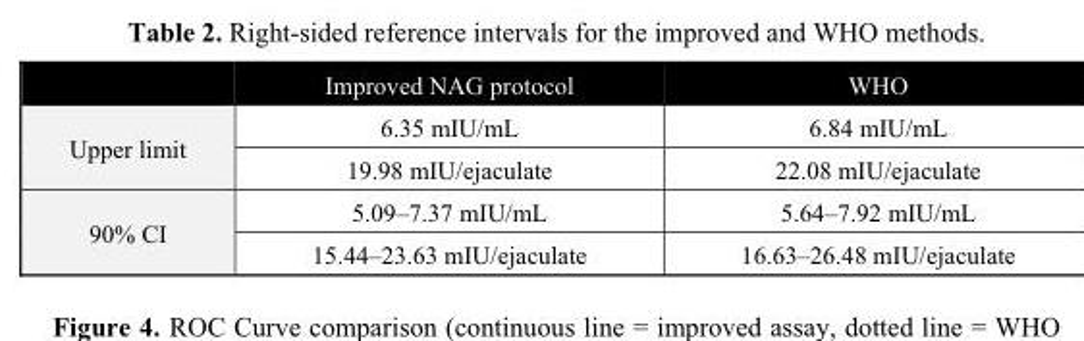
<table><thead><tr><td></td><td>Improved NAG protocol</td><td>WHO</td></tr></thead><tbody><tr><td rowspan="2">Upper limit</td><td>6.35 mIU/mL</td><td>6.84 mIU/mL</td></tr><tr><td>19.98 mIU/ejaculate</td><td>22.08 mIU/ejaculate</td></tr><tr><td rowspan="2">90% CI</td><td>5.09–7.37 mIU/mL</td><td>5.64–7.92 mIU/mL</td></tr><tr><td>15.44–23.63 mIU/ejaculate</td><td>16.63–26.48 mIU/ejaculate</td></tr></tbody></table>